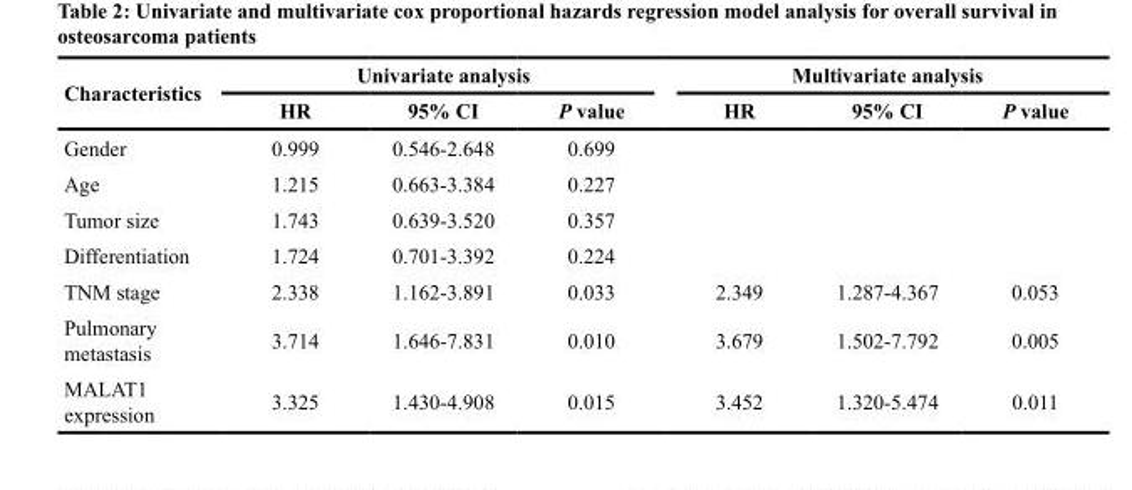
<table><thead><tr><td rowspan="2">Characteristics</td><td colspan="3">Univariate analysis</td><td colspan="3">Multivariate analysis</td></tr><tr><td>HR</td><td>95% CI</td><td>P value</td><td>HR</td><td>95% CI</td><td>P value</td></tr></thead><tbody><tr><td>Gender</td><td>0.999</td><td>0.546-2.648</td><td>0.699</td><td></td><td></td><td></td></tr><tr><td>Age</td><td>1.215</td><td>0.663-3.384</td><td>0.227</td><td></td><td></td><td></td></tr><tr><td>Tumor size</td><td>1.743</td><td>0.639-3.520</td><td>0.357</td><td></td><td></td><td></td></tr><tr><td>Differentiation</td><td>1.724</td><td>0.701-3.392</td><td>0.224</td><td></td><td></td><td></td></tr><tr><td>TNM stage</td><td>2.338</td><td>1.162-3.891</td><td>0.033</td><td>2.349</td><td>1.287-4.367</td><td>0.053</td></tr><tr><td>Pulmonary metastasis</td><td>3.714</td><td>1.646-7.831</td><td>0.010</td><td>3.679</td><td>1.502-7.792</td><td>0.005</td></tr><tr><td>MALAT1 expression</td><td>3.325</td><td>1.430-4.908</td><td>0.015</td><td>3.452</td><td>1.320-5.474</td><td>0.011</td></tr></tbody></table>